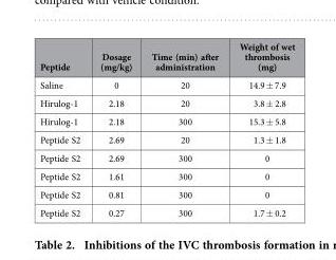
<table><thead><tr><td>Peptide</td><td>Dosage (mg/kg)</td><td>Time (min) after administration</td><td>Weight of wet thrombosis (mg)</td></tr></thead><tbody><tr><td>Saline</td><td>0</td><td>20</td><td>14.9 ± 7.9</td></tr><tr><td>Hirulog-1</td><td>2.18</td><td>20</td><td>3.8 ± 2.8</td></tr><tr><td>Hirulog-1</td><td>2.18</td><td>300</td><td>15.3 ± 5.8</td></tr><tr><td>Peptide S2</td><td>2.69</td><td>20</td><td>1.3 ± 1.8</td></tr><tr><td>Peptide S2</td><td>2.69</td><td>300</td><td>0</td></tr><tr><td>Peptide S2</td><td>1.61</td><td>300</td><td>0</td></tr><tr><td>Peptide S2</td><td>0.81</td><td>300</td><td>0</td></tr><tr><td>Peptide S2</td><td>0.27</td><td>300</td><td>1.7 ± 0.2</td></tr></tbody></table>